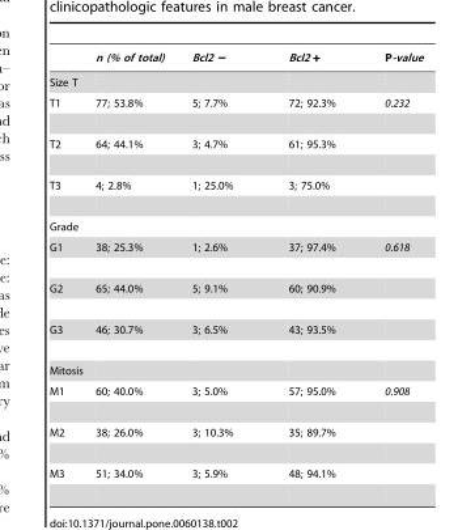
<table><thead><tr><td></td><td>n (% of total)</td><td>Bcl2 −</td><td>Bcl2 +</td><td>P-value</td></tr></thead><tbody><tr><td colspan="5">Size T</td></tr><tr><td>T1</td><td>77; 53.8%</td><td>5; 7.7%</td><td>72; 92.3%</td><td>0.232</td></tr><tr><td>T2</td><td>64; 44.1%</td><td>3; 4.7%</td><td>61; 95.3%</td><td></td></tr><tr><td>T3</td><td>4; 2.8%</td><td>1; 25.0%</td><td>3; 75.0%</td><td></td></tr><tr><td colspan="5">Grade</td></tr><tr><td>G1</td><td>38; 25.3%</td><td>1; 2.6%</td><td>37; 97.4%</td><td>0.618</td></tr><tr><td>G2</td><td>65; 44.0%</td><td>5; 9.1%</td><td>60; 90.9%</td><td></td></tr><tr><td>G3</td><td>46; 30.7%</td><td>3; 6.5%</td><td>43; 93.5%</td><td></td></tr><tr><td colspan="5">Mitosis</td></tr><tr><td>M1</td><td>60; 40.0%</td><td>3; 5.0%</td><td>57; 95.0%</td><td>0.908</td></tr><tr><td>M2</td><td>38; 26.0%</td><td>3; 10.3%</td><td>35; 89.7%</td><td></td></tr><tr><td>M3</td><td>51; 34.0%</td><td>3; 5.9%</td><td>48; 94.1%</td><td></td></tr></tbody></table>